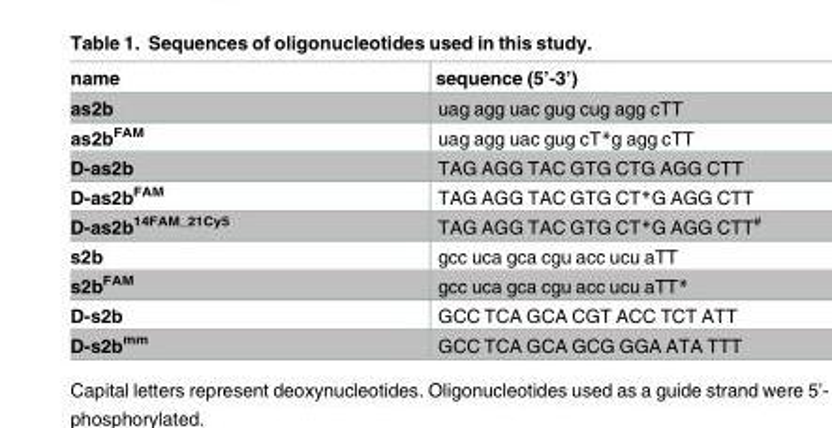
<table><thead><tr><td>name</td><td>sequence (5’-3’)</td></tr></thead><tbody><tr><td>as2b</td><td>uag agg uac gug cug agg cTT</td></tr><tr><td>as2b<sup>FAM</sup></td><td>uag agg uac gug cT*g agg cTT</td></tr><tr><td>D-as2b</td><td>TAG AGG TAC GTG CTG AGG CTT</td></tr><tr><td>D-as2b<sup>FAM</sup></td><td>TAG AGG TAC GTG CT*G AGG CTT</td></tr><tr><td>D-as2b<sup>14FAM_21Cy5</sup></td><td>TAG AGG TAC GTG CT*G AGG CTT<sup>#</sup></td></tr><tr><td>s2b</td><td>gcc uca gca cgu acc ucu aTT</td></tr><tr><td>s2b<sup>FAM</sup></td><td>gcc uca gca cgu acc ucu aTT*</td></tr><tr><td>D-s2b</td><td>GCC TCA GCA CGT ACC TCT ATT</td></tr><tr><td>D-s2b<sup>mm</sup></td><td>GCC TCA GCA GCG GGA ATA TTT</td></tr></tbody></table>